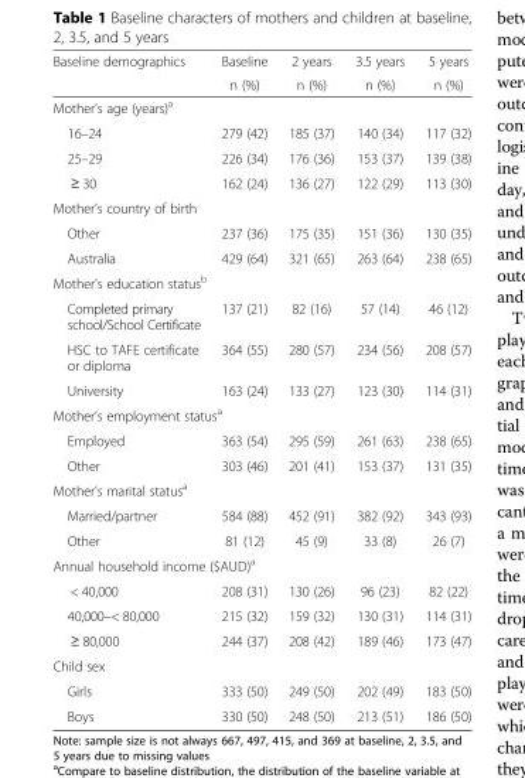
<table><thead><tr><td rowspan="2">Baseline demographics</td><td rowspan="2">Baseline n (%)</td><td rowspan="2">2 years n (%)</td><td rowspan="2">3.5 years n (%)</td><td rowspan="2">5 years n (%)</td></tr><tr></tr></thead><tbody><tr><td colspan="5">Mother’s age (years)<sup>a</sup></td></tr><tr><td>16–24</td><td>279 (42)</td><td>185 (37)</td><td>140 (34)</td><td>117 (32)</td></tr><tr><td>25–29</td><td>226 (34)</td><td>176 (36)</td><td>153 (37)</td><td>139 (38)</td></tr><tr><td>≥ 30</td><td>162 (24)</td><td>136 (27)</td><td>122 (29)</td><td>113 (30)</td></tr><tr><td colspan="5">Mother’s country of birth</td></tr><tr><td>Other</td><td>237 (36)</td><td>175 (35)</td><td>151 (36)</td><td>130 (35)</td></tr><tr><td>Australia</td><td>429 (64)</td><td>321 (65)</td><td>263 (64)</td><td>238 (65)</td></tr><tr><td colspan="5">Mother’s education status<sup>b</sup></td></tr><tr><td>Completed primary school/School Certificate</td><td>137 (21)</td><td>82 (16)</td><td>57 (14)</td><td>46 (12)</td></tr><tr><td>HSC to TAFE certificate or diploma</td><td>364 (55)</td><td>280 (57)</td><td>234 (56)</td><td>208 (57)</td></tr><tr><td>University</td><td>163 (24)</td><td>133 (27)</td><td>123 (30)</td><td>114 (31)</td></tr><tr><td colspan="5">Mother’s employment status<sup>a</sup></td></tr><tr><td>Employed</td><td>363 (54)</td><td>295 (59)</td><td>261 (63)</td><td>238 (65)</td></tr><tr><td>Other</td><td>303 (46)</td><td>201 (41)</td><td>153 (37)</td><td>131 (35)</td></tr><tr><td colspan="5">Mother’s marital status<sup>a</sup></td></tr><tr><td>Married/partner</td><td>584 (88)</td><td>452 (91)</td><td>382 (92)</td><td>343 (93)</td></tr><tr><td>Other</td><td>81 (12)</td><td>45 (9)</td><td>33 (8)</td><td>26 (7)</td></tr><tr><td colspan="5">Annual household income ($AUD)<sup>a</sup></td></tr><tr><td>&lt; 40,000</td><td>208 (31)</td><td>130 (26)</td><td>96 (23)</td><td>82 (22)</td></tr><tr><td>40,000–&lt; 80,000</td><td>215 (32)</td><td>159 (32)</td><td>130 (31)</td><td>114 (31)</td></tr><tr><td>≥ 80,000</td><td>244 (37)</td><td>208 (42)</td><td>189 (46)</td><td>173 (47)</td></tr><tr><td colspan="5">Child sex</td></tr><tr><td>Girls</td><td>333 (50)</td><td>249 (50)</td><td>202 (49)</td><td>183 (50)</td></tr><tr><td>Boys</td><td>330 (50)</td><td>248 (50)</td><td>213 (51)</td><td>186 (50)</td></tr></tbody></table>